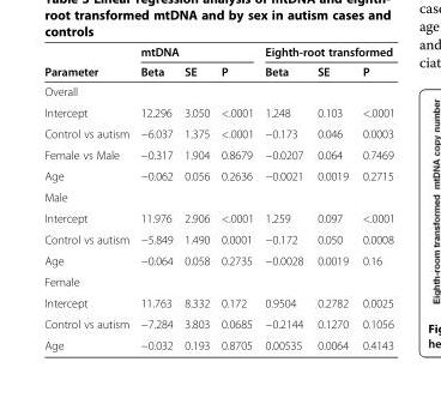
<table><thead><tr><td rowspan="2">Parameter</td><td colspan="3">mtDNA</td><td colspan="3">Eighth-root transformed</td></tr><tr><td>Beta</td><td>SE</td><td>P</td><td>Beta</td><td>SE</td><td>P</td></tr></thead><tbody><tr><td colspan="7">Overall</td></tr><tr><td>Intercept</td><td>12.296</td><td>3.050</td><td>&lt;.0001</td><td>1.248</td><td>0.103</td><td>&lt;.0001</td></tr><tr><td>Control vs autism</td><td>−6.037</td><td>1.375</td><td>&lt;.0001</td><td>−0.173</td><td>0.046</td><td>0.0003</td></tr><tr><td>Female vs Male</td><td>−0.317</td><td>1.904</td><td>0.8679</td><td>−0.0207</td><td>0.064</td><td>0.7469</td></tr><tr><td>Age</td><td>−0.062</td><td>0.056</td><td>0.2636</td><td>−0.0021</td><td>0.0019</td><td>0.2715</td></tr><tr><td colspan="7">Male</td></tr><tr><td>Intercept</td><td>11.976</td><td>2.906</td><td>&lt;.0001</td><td>1.259</td><td>0.097</td><td>&lt;.0001</td></tr><tr><td>Control vs autism</td><td>−5.849</td><td>1.490</td><td>0.0001</td><td>−0.172</td><td>0.050</td><td>0.0008</td></tr><tr><td>Age</td><td>−0.064</td><td>0.058</td><td>0.2735</td><td>−0.0028</td><td>0.0019</td><td>0.16</td></tr><tr><td colspan="7">Female</td></tr><tr><td>Intercept</td><td>11.763</td><td>8.332</td><td>0.172</td><td>0.9504</td><td>0.2782</td><td>0.0025</td></tr><tr><td>Control vs autism</td><td>−7.284</td><td>3.803</td><td>0.0685</td><td>−0.2144</td><td>0.1270</td><td>0.1056</td></tr><tr><td>Age</td><td>−0.032</td><td>0.193</td><td>0.8705</td><td>0.00535</td><td>0.0064</td><td>0.4143</td></tr></tbody></table>